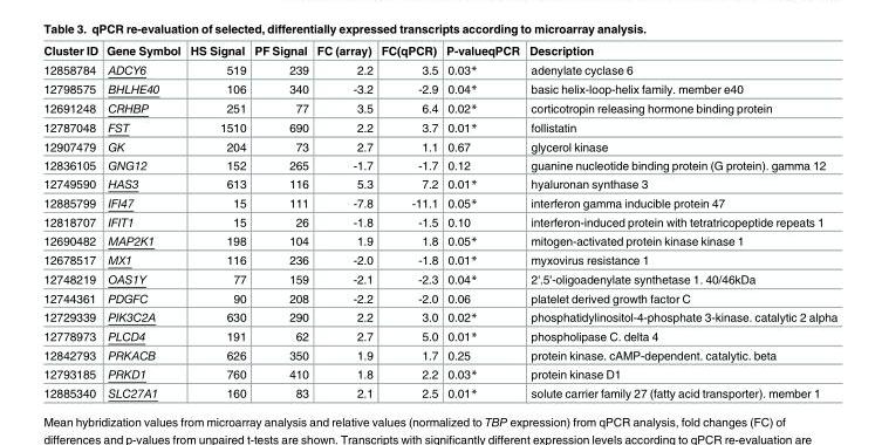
<table><thead><tr><td>Cluster ID</td><td>Gene Symbol</td><td>HS Signal</td><td>PF Signal</td><td>FC (array)</td><td>FC(qPCR)</td><td>P-valueqPCR</td><td>Description</td></tr></thead><tbody><tr><td>12858784</td><td>ADCY6</td><td>519</td><td>239</td><td>2.2</td><td>3.5</td><td>0.03*</td><td>adenylate cyclase 6</td></tr><tr><td>12798575</td><td>BHLHE40</td><td>106</td><td>340</td><td>-3.2</td><td>-2.9</td><td>0.04*</td><td>basic helix-loop-helix family. member e40</td></tr><tr><td>12691248</td><td>CRHBP</td><td>251</td><td>77</td><td>3.5</td><td>6.4</td><td>0.02*</td><td>corticotropin releasing hormone binding protein</td></tr><tr><td>12787048</td><td>FST</td><td>1510</td><td>690</td><td>2.2</td><td>3.7</td><td>0.01*</td><td>follistatin</td></tr><tr><td>12907479</td><td>GK</td><td>204</td><td>73</td><td>2.7</td><td>1.1</td><td>0.67</td><td>glycerol kinase</td></tr><tr><td>12836105</td><td>GNG12</td><td>152</td><td>265</td><td>-1.7</td><td>-1.7</td><td>0.12</td><td>guanine nucleotide binding protein (G protein). gamma 12</td></tr><tr><td>12749590</td><td>HAS3</td><td>613</td><td>116</td><td>5.3</td><td>7.2</td><td>0.01*</td><td>hyaluronan synthase 3</td></tr><tr><td>12885799</td><td>IFI47</td><td>15</td><td>111</td><td>-7.8</td><td>-11.1</td><td>0.05*</td><td>interferon gamma inducible protein 47</td></tr><tr><td>12818707</td><td>IFIT1</td><td>15</td><td>26</td><td>-1.8</td><td>-1.5</td><td>0.10</td><td>interferon-induced protein with tetratricopeptide repeats 1</td></tr><tr><td>12690482</td><td>MAP2K1</td><td>198</td><td>104</td><td>1.9</td><td>1.8</td><td>0.05*</td><td>mitogen-activated protein kinase kinase 1</td></tr><tr><td>12678517</td><td>MX1</td><td>116</td><td>236</td><td>-2.0</td><td>-1.8</td><td>0.01*</td><td>myxovirus resistance 1</td></tr><tr><td>12748219</td><td>OAS1Y</td><td>77</td><td>159</td><td>-2.1</td><td>-2.3</td><td>0.04*</td><td>2&#x27;.5&#x27;-oligoadenylate synthetase 1. 40/46kDa</td></tr><tr><td>12744361</td><td>PDGFC</td><td>90</td><td>208</td><td>-2.2</td><td>-2.0</td><td>0.06</td><td>platelet derived growth factor C</td></tr><tr><td>12729339</td><td>PIK3C2A</td><td>630</td><td>290</td><td>2.2</td><td>3.0</td><td>0.02*</td><td>phosphatidylinositol-4-phosphate 3-kinase. catalytic 2 alpha</td></tr><tr><td>12778973</td><td>PLCD4</td><td>191</td><td>62</td><td>2.7</td><td>5.0</td><td>0.01*</td><td>phospholipase C. delta 4</td></tr><tr><td>12842793</td><td>PRKACB</td><td>626</td><td>350</td><td>1.9</td><td>1.7</td><td>0.25</td><td>protein kinase. cAMP-dependent. catalytic. beta</td></tr><tr><td>12793185</td><td>PRKD1</td><td>760</td><td>410</td><td>1.8</td><td>2.2</td><td>0.03*</td><td>protein kinase D1</td></tr><tr><td>12885340</td><td>SLC27A1</td><td>160</td><td>83</td><td>2.1</td><td>2.5</td><td>0.01*</td><td>solute carrier family 27 (fatty acid transporter). member 1</td></tr></tbody></table>